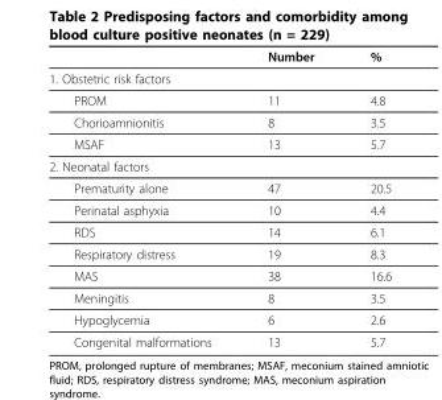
<table><thead><tr><td></td><td>Number</td><td>%</td></tr></thead><tbody><tr><td colspan="3">1. Obstetric risk factors</td></tr><tr><td>PROM</td><td>11</td><td>4.8</td></tr><tr><td>Chorioamnionitis</td><td>8</td><td>3.5</td></tr><tr><td>MSAF</td><td>13</td><td>5.7</td></tr><tr><td colspan="3">2. Neonatal factors</td></tr><tr><td>Prematurity alone</td><td>47</td><td>20.5</td></tr><tr><td>Perinatal asphyxia</td><td>10</td><td>4.4</td></tr><tr><td>RDS</td><td>14</td><td>6.1</td></tr><tr><td>Respiratory distress</td><td>19</td><td>8.3</td></tr><tr><td>MAS</td><td>38</td><td>16.6</td></tr><tr><td>Meningitis</td><td>8</td><td>3.5</td></tr><tr><td>Hypoglycemia</td><td>6</td><td>2.6</td></tr><tr><td>Congenital malformations</td><td>13</td><td>5.7</td></tr></tbody></table>